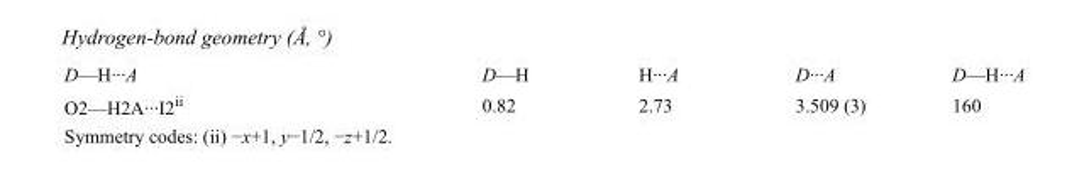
<table><tbody><tr><td>D—H···A</td><td>D—H</td><td>H···A</td><td>D···A</td><td>D—H···A</td></tr><tr><td>O2—H2A···I2<sup>ii</sup></td><td>0.82</td><td>2.73</td><td>3.509 (3)</td><td>160</td></tr></tbody></table>